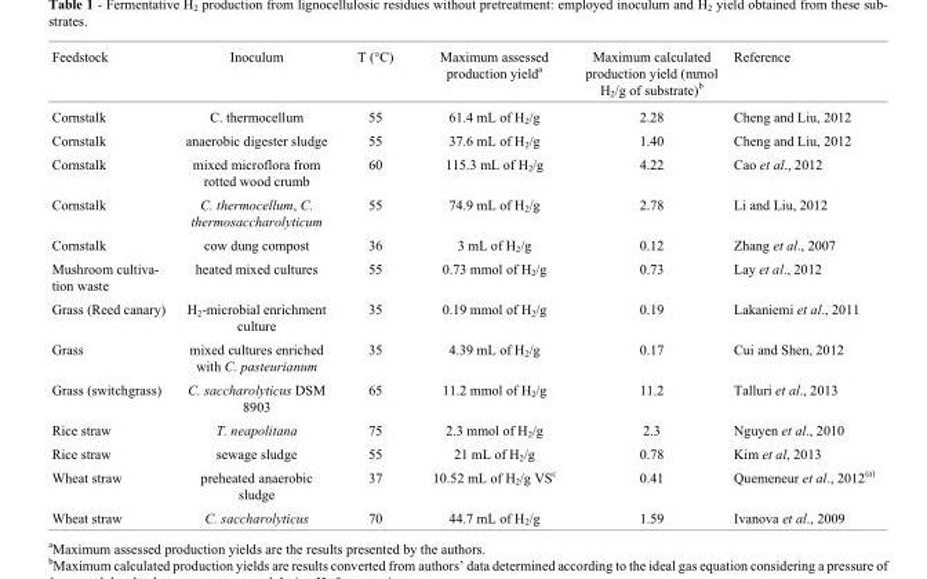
<table><thead><tr><td>Feedstock</td><td>Inoculum</td><td>T (°C)</td><td>Maximum assessed production yield<sup>a</sup></td><td>Maximum calculated production yield (mmol H<sub>2</sub>/g of substrate)<sup>b</sup></td><td>Reference</td></tr></thead><tbody><tr><td>Cornstalk</td><td>C. thermocellum</td><td>55</td><td>61.4 mL of H<sub>2</sub>/g</td><td>2.28</td><td>Cheng and Liu, 2012</td></tr><tr><td>Cornstalk</td><td>anaerobic digester sludge</td><td>55</td><td>37.6 mL of H<sub>2</sub>/g</td><td>1.40</td><td>Cheng and Liu, 2012</td></tr><tr><td>Cornstalk</td><td>mixed microflora from rotted wood crumb</td><td>60</td><td>115.3 mL of H<sub>2</sub>/g</td><td>4.22</td><td>Cao et al., 2012</td></tr><tr><td>Cornstalk</td><td>C. thermocellum, C. thermosaccharolyticum</td><td>55</td><td>74.9 mL of H<sub>2</sub>/g</td><td>2.78</td><td>Li and Liu, 2012</td></tr><tr><td>Cornstalk</td><td>cow dung compost</td><td>36</td><td>3 mL of H<sub>2</sub>/g</td><td>0.12</td><td>Zhang et al., 2007</td></tr><tr><td>Mushroom cultiva- tion waste</td><td>heated mixed cultures</td><td>55</td><td>0.73 mmol of H<sub>2</sub>/g</td><td>0.73</td><td>Lay et al., 2012</td></tr><tr><td>Grass (Reed canary)</td><td>H<sub>2</sub>-microbial enrichment culture</td><td>35</td><td>0.19 mmol of H<sub>2</sub>/g</td><td>0.19</td><td>Lakaniemi et al., 2011</td></tr><tr><td>Grass</td><td>mixed cultures enriched with C. pasteurianum</td><td>35</td><td>4.39 mL of H<sub>2</sub>/g</td><td>0.17</td><td>Cui and Shen, 2012</td></tr><tr><td>Grass (switchgrass)</td><td>C. saccharolyticus DSM 8903</td><td>65</td><td>11.2 mmol of H<sub>2</sub>/g</td><td>11.2</td><td>Talluri et al., 2013</td></tr><tr><td>Rice straw</td><td>T. neapolitana</td><td>75</td><td>2.3 mmol of H<sub>2</sub>/g</td><td>2.3</td><td>Nguyen et al., 2010</td></tr><tr><td>Rice straw</td><td>sewage sludge</td><td>55</td><td>21 mL of H<sub>2</sub>/g</td><td>0.78</td><td>Kim et al, 2013</td></tr><tr><td>Wheat straw</td><td>preheated anaerobic sludge</td><td>37</td><td>10.52 mL of H<sub>2</sub>/g VS<sup>c</sup></td><td>0.41</td><td>Quemeneur et al., 2012(a)</td></tr><tr><td>Wheat straw</td><td>C. saccharolyticus</td><td>70</td><td>44.7 mL of H<sub>2</sub>/g</td><td>1.59</td><td>Ivanova et al., 2009</td></tr></tbody></table>